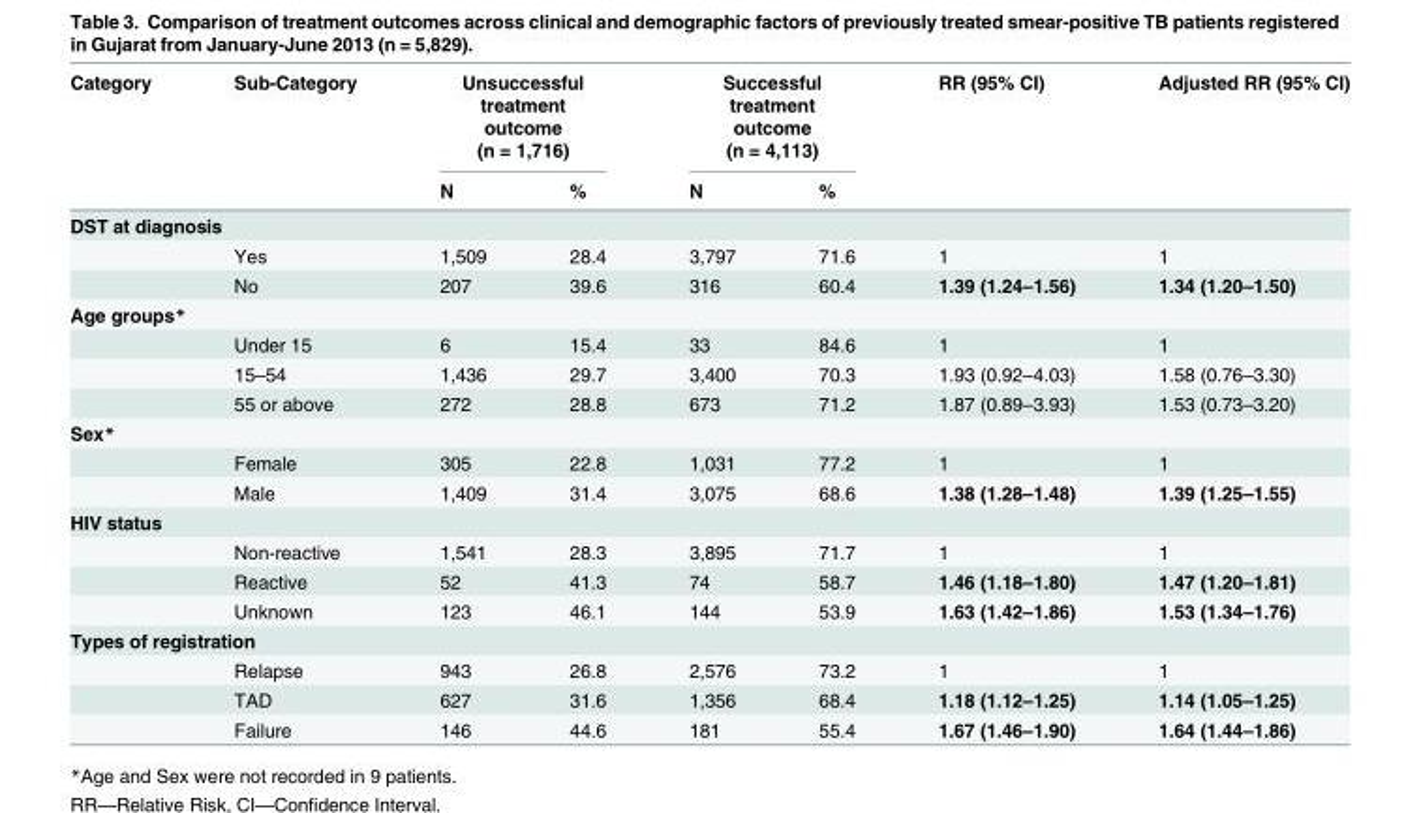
<table><thead><tr><td rowspan="2">Category</td><td rowspan="2">Sub-Category</td><td colspan="2">Unsuccessful treatment outcome (n = 1,716)</td><td colspan="2">Successful treatment outcome (n = 4,113)</td><td rowspan="2">RR (95% CI)</td><td rowspan="2">Adjusted RR (95% CI)</td></tr><tr><td>N</td><td>%</td><td>N</td><td>%</td></tr></thead><tbody><tr><td colspan="8">DST at diagnosis</td></tr><tr><td></td><td>Yes</td><td>1,509</td><td>28.4</td><td>3,797</td><td>71.6</td><td>1</td><td>1</td></tr><tr><td></td><td>No</td><td>207</td><td>39.6</td><td>316</td><td>60.4</td><td>1.39 (1.24–1.56)</td><td>1.34 (1.20–1.50)</td></tr><tr><td colspan="8">Age groups*</td></tr><tr><td></td><td>Under 15</td><td>6</td><td>15.4</td><td>33</td><td>84.6</td><td>1</td><td>1</td></tr><tr><td></td><td>15–54</td><td>1,436</td><td>29.7</td><td>3,400</td><td>70.3</td><td>1.93 (0.92–4.03)</td><td>1.58 (0.76–3.30)</td></tr><tr><td></td><td>55 or above</td><td>272</td><td>28.8</td><td>673</td><td>71.2</td><td>1.87 (0.89–3.93)</td><td>1.53 (0.73–3.20)</td></tr><tr><td colspan="8">Sex*</td></tr><tr><td></td><td>Female</td><td>305</td><td>22.8</td><td>1,031</td><td>77.2</td><td>1</td><td>1</td></tr><tr><td></td><td>Male</td><td>1,409</td><td>31.4</td><td>3,075</td><td>68.6</td><td>1.38 (1.28–1.48)</td><td>1.39 (1.25–1.55)</td></tr><tr><td colspan="8">HIV status</td></tr><tr><td></td><td>Non-reactive</td><td>1,541</td><td>28.3</td><td>3,895</td><td>71.7</td><td>1</td><td>1</td></tr><tr><td></td><td>Reactive</td><td>52</td><td>41.3</td><td>74</td><td>58.7</td><td>1.46 (1.18–1.80)</td><td>1.47 (1.20–1.81)</td></tr><tr><td></td><td>Unknown</td><td>123</td><td>46.1</td><td>144</td><td>53.9</td><td>1.63 (1.42–1.86)</td><td>1.53 (1.34–1.76)</td></tr><tr><td colspan="8">Types of registration</td></tr><tr><td></td><td>Relapse</td><td>943</td><td>26.8</td><td>2,576</td><td>73.2</td><td>1</td><td>1</td></tr><tr><td></td><td>TAD</td><td>627</td><td>31.6</td><td>1,356</td><td>68.4</td><td>1.18 (1.12–1.25)</td><td>1.14 (1.05–1.25)</td></tr><tr><td></td><td>Failure</td><td>146</td><td>44.6</td><td>181</td><td>55.4</td><td>1.67 (1.46–1.90)</td><td>1.64 (1.44–1.86)</td></tr></tbody></table>